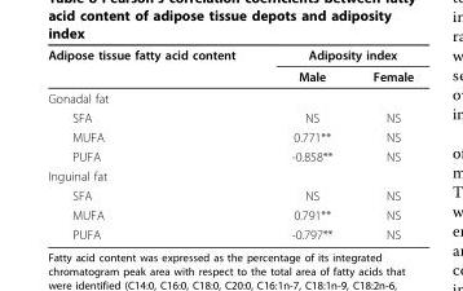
<table><thead><tr><td rowspan="2">Adipose tissue fatty acid content</td><td colspan="2">Adiposity index</td></tr><tr><td>Male</td><td>Female</td></tr></thead><tbody><tr><td colspan="3">Gonadal fat</td></tr><tr><td>SFA</td><td>NS</td><td>NS</td></tr><tr><td>MUFA</td><td>0.771**</td><td>NS</td></tr><tr><td>PUFA</td><td>-0.858**</td><td>NS</td></tr><tr><td colspan="3">Inguinal fat</td></tr><tr><td>SFA</td><td>NS</td><td>NS</td></tr><tr><td>MUFA</td><td>0.791**</td><td>NS</td></tr><tr><td>PUFA</td><td>-0.797**</td><td>NS</td></tr></tbody></table>